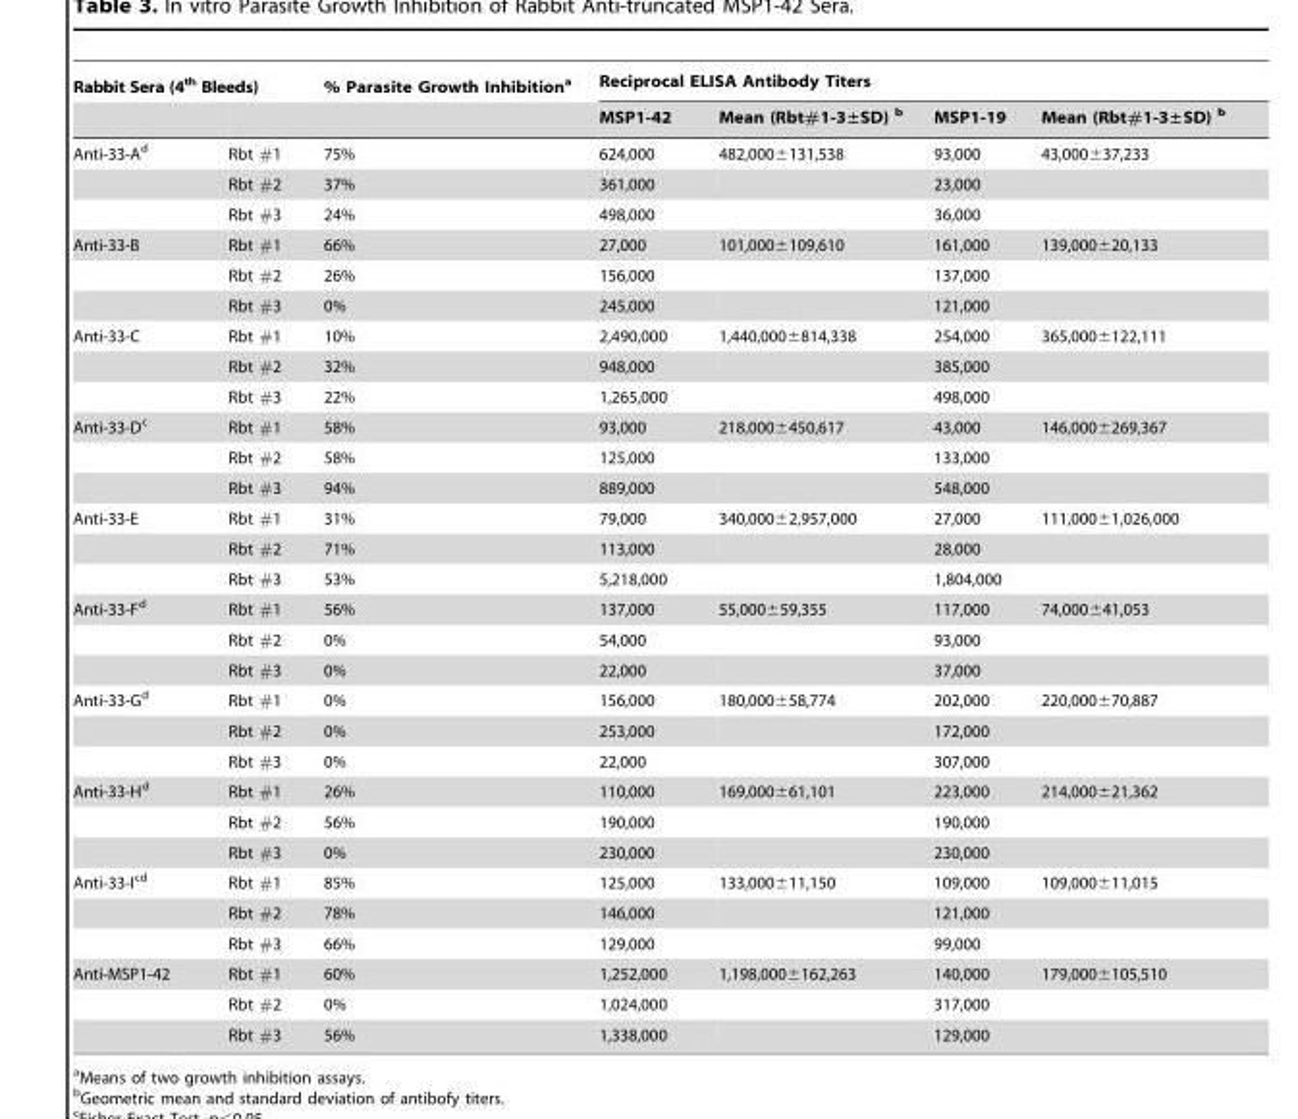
<table><thead><tr><td colspan="2">Rabbit Sera (4<sup>th</sup> Bleeds)</td><td rowspan="2">% Parasite Growth Inhibition<sup>a</sup></td><td colspan="4">Reciprocal ELISA Antibody Titers</td></tr><tr><td></td><td></td><td>MSP1-42</td><td>Mean (Rbt#1-3±SD) <sup>b</sup></td><td>MSP1-19</td><td>Mean (Rbt#1-3±SD) <sup>b</sup></td></tr></thead><tbody><tr><td rowspan="3">Anti-33-A<sup>d</sup></td><td>Rbt #1</td><td>75%</td><td>624,000</td><td>482,000±131,538</td><td>93,000</td><td>43,000±37,233</td></tr><tr><td>Rbt #2</td><td>37%</td><td>361,000</td><td></td><td>23,000</td><td></td></tr><tr><td>Rbt #3</td><td>24%</td><td>498,000</td><td></td><td>36,000</td><td></td></tr><tr><td rowspan="3">Anti-33-B</td><td>Rbt #1</td><td>66%</td><td>27,000</td><td>101,000±109,610</td><td>161,000</td><td>139,000±20,133</td></tr><tr><td>Rbt #2</td><td>26%</td><td>156,000</td><td></td><td>137,000</td><td></td></tr><tr><td>Rbt #3</td><td>0%</td><td>245,000</td><td></td><td>121,000</td><td></td></tr><tr><td rowspan="3">Anti-33-C</td><td>Rbt #1</td><td>10%</td><td>2,490,000</td><td>1,440,000±814,338</td><td>254,000</td><td>365,000±122,111</td></tr><tr><td>Rbt #2</td><td>32%</td><td>948,000</td><td></td><td>385,000</td><td></td></tr><tr><td>Rbt #3</td><td>22%</td><td>1,265,000</td><td></td><td>498,000</td><td></td></tr><tr><td rowspan="3">Anti-33-D<sup>c</sup></td><td>Rbt #1</td><td>58%</td><td>93,000</td><td>218,000±450,617</td><td>43,000</td><td>146,000±269,367</td></tr><tr><td>Rbt #2</td><td>58%</td><td>125,000</td><td></td><td>133,000</td><td></td></tr><tr><td>Rbt #3</td><td>94%</td><td>889,000</td><td></td><td>548,000</td><td></td></tr><tr><td rowspan="3">Anti-33-E</td><td>Rbt #1</td><td>31%</td><td>79,000</td><td>340,000±2,957,000</td><td>27,000</td><td>111,000±1,026,000</td></tr><tr><td>Rbt #2</td><td>71%</td><td>113,000</td><td></td><td>28,000</td><td></td></tr><tr><td>Rbt #3</td><td>53%</td><td>5,218,000</td><td></td><td>1,804,000</td><td></td></tr><tr><td rowspan="3">Anti-33-F<sup>d</sup></td><td>Rbt #1</td><td>56%</td><td>137,000</td><td>55,000±59,355</td><td>117,000</td><td>74,000±41,053</td></tr><tr><td>Rbt #2</td><td>0%</td><td>54,000</td><td></td><td>93,000</td><td></td></tr><tr><td>Rbt #3</td><td>0%</td><td>22,000</td><td></td><td>37,000</td><td></td></tr><tr><td rowspan="3">Anti-33-G<sup>d</sup></td><td>Rbt #1</td><td>0%</td><td>156,000</td><td>180,000±58,774</td><td>202,000</td><td>220,000±70,887</td></tr><tr><td>Rbt #2</td><td>0%</td><td>253,000</td><td></td><td>172,000</td><td></td></tr><tr><td>Rbt #3</td><td>0%</td><td>22,000</td><td></td><td>307,000</td><td></td></tr><tr><td rowspan="3">Anti-33-H<sup>d</sup></td><td>Rbt #1</td><td>26%</td><td>110,000</td><td>169,000±61,101</td><td>223,000</td><td>214,000±21,362</td></tr><tr><td>Rbt #2</td><td>56%</td><td>190,000</td><td></td><td>190,000</td><td></td></tr><tr><td>Rbt #3</td><td>0%</td><td>230,000</td><td></td><td>230,000</td><td></td></tr><tr><td rowspan="3">Anti-33-I<sup>cd</sup></td><td>Rbt #1</td><td>85%</td><td>125,000</td><td>133,000±11,150</td><td>109,000</td><td>109,000±11,015</td></tr><tr><td>Rbt #2</td><td>78%</td><td>146,000</td><td></td><td>121,000</td><td></td></tr><tr><td>Rbt #3</td><td>66%</td><td>129,000</td><td></td><td>99,000</td><td></td></tr><tr><td rowspan="3">Anti-MSP1-42</td><td>Rbt #1</td><td>60%</td><td>1,252,000</td><td>1,198,000±162,263</td><td>140,000</td><td>179,000±105,510</td></tr><tr><td>Rbt #2</td><td>0%</td><td>1,024,000</td><td></td><td>317,000</td><td></td></tr><tr><td>Rbt #3</td><td>56%</td><td>1,338,000</td><td></td><td>129,000</td><td></td></tr></tbody></table>